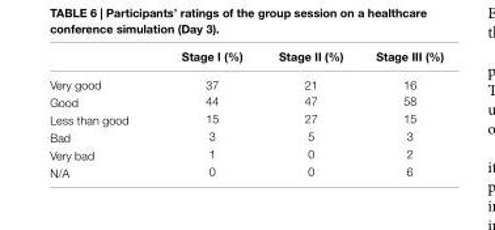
<table><thead><tr><td></td><td>stage I (%)</td><td>stage II (%)</td><td>stage III (%)</td></tr></thead><tbody><tr><td>Very good</td><td>37</td><td>21</td><td>16</td></tr><tr><td>Good</td><td>44</td><td>47</td><td>58</td></tr><tr><td>Less than good</td><td>15</td><td>27</td><td>15</td></tr><tr><td>Bad</td><td>3</td><td>5</td><td>3</td></tr><tr><td>Very bad</td><td>1</td><td>0</td><td>2</td></tr><tr><td>N/A</td><td>0</td><td>0</td><td>6</td></tr></tbody></table>